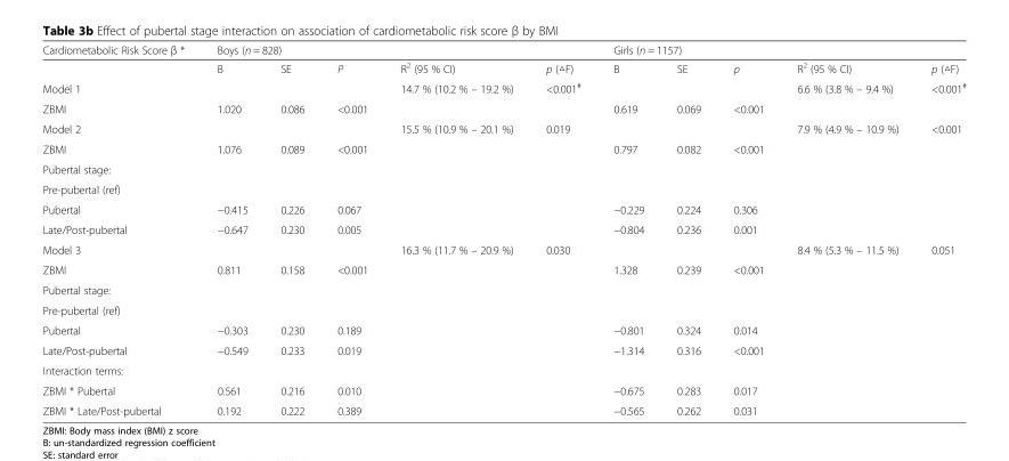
<table><thead><tr><td rowspan="2">Cardiometabolic Risk Score β *</td><td colspan="5">Boys (n = 828)</td><td colspan="5">Girls (n = 1157)</td></tr><tr><td>B</td><td>SE</td><td>P</td><td>R<sup>2</sup> (95 % CI)</td><td>p (△F)</td><td>B</td><td>SE</td><td>p</td><td>R<sup>2</sup> (95 % CI)</td><td>p (△F)</td></tr></thead><tbody><tr><td>Model 1</td><td></td><td></td><td></td><td>14.7 % (10.2 % – 19.2 %)</td><td>&lt;0.001<sup>#</sup></td><td></td><td></td><td></td><td>6.6 % (3.8 % – 9.4 %)</td><td>&lt;0.001<sup>#</sup></td></tr><tr><td>ZBMI</td><td>1.020</td><td>0.086</td><td>&lt;0.001</td><td></td><td></td><td>0.619</td><td>0.069</td><td>&lt;0.001</td><td></td><td></td></tr><tr><td>Model 2</td><td></td><td></td><td></td><td>15.5 % (10.9 % – 20.1 %)</td><td>0.019</td><td></td><td></td><td></td><td>7.9 % (4.9 % – 10.9 %)</td><td>&lt;0.001</td></tr><tr><td>ZBMI</td><td>1.076</td><td>0.089</td><td>&lt;0.001</td><td></td><td></td><td>0.797</td><td>0.082</td><td>&lt;0.001</td><td></td><td></td></tr><tr><td colspan="11">Pubertal stage:</td></tr><tr><td colspan="11">Pre-pubertal (ref)</td></tr><tr><td>Pubertal</td><td>−0.415</td><td>0.226</td><td>0.067</td><td></td><td></td><td>−0.229</td><td>0.224</td><td>0.306</td><td></td><td></td></tr><tr><td>Late/Post-pubertal</td><td>−0.647</td><td>0.230</td><td>0.005</td><td></td><td></td><td>−0.804</td><td>0.236</td><td>0.001</td><td></td><td></td></tr><tr><td>Model 3</td><td></td><td></td><td></td><td>16.3 % (11.7 % – 20.9 %)</td><td>0.030</td><td></td><td></td><td></td><td>8.4 % (5.3 % – 11.5 %)</td><td>0.051</td></tr><tr><td>ZBMI</td><td>0.811</td><td>0.158</td><td>&lt;0.001</td><td></td><td></td><td>1.328</td><td>0.239</td><td>&lt;0.001</td><td></td><td></td></tr><tr><td colspan="11">Pubertal stage:</td></tr><tr><td colspan="11">Pre-pubertal (ref)</td></tr><tr><td>Pubertal</td><td>−0.303</td><td>0.230</td><td>0.189</td><td></td><td></td><td>−0.801</td><td>0.324</td><td>0.014</td><td></td><td></td></tr><tr><td>Late/Post-pubertal</td><td>−0.549</td><td>0.233</td><td>0.019</td><td></td><td></td><td>−1.314</td><td>0.316</td><td>&lt;0.001</td><td></td><td></td></tr><tr><td colspan="11">Interaction terms:</td></tr><tr><td>ZBMI * Pubertal</td><td>0.561</td><td>0.216</td><td>0.010</td><td></td><td></td><td>−0.675</td><td>0.283</td><td>0.017</td><td></td><td></td></tr><tr><td>ZBMI * Late/Post-pubertal</td><td>0.192</td><td>0.222</td><td>0.389</td><td></td><td></td><td>−0.565</td><td>0.262</td><td>0.031</td><td></td><td></td></tr></tbody></table>